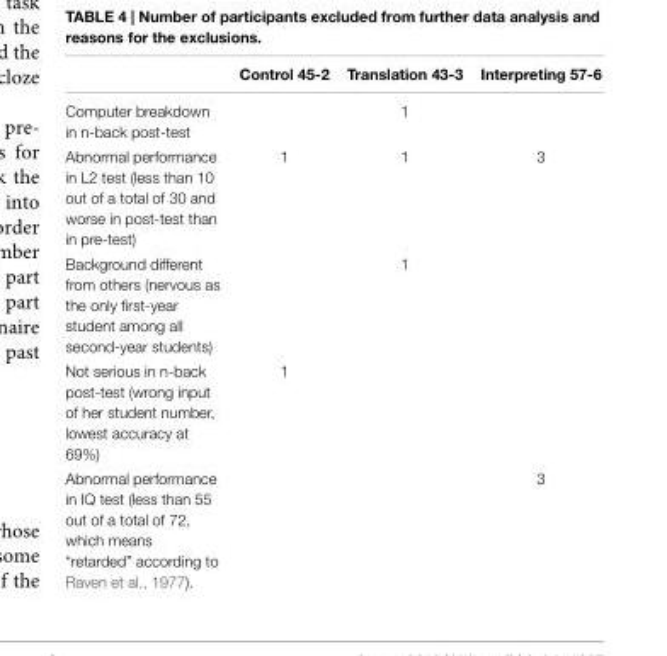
<table><thead><tr><td></td><td>Control 45-2</td><td>Translation 43-3</td><td>Interpreting 57-6</td></tr></thead><tbody><tr><td>Computer breakdown in n-back post-test</td><td></td><td>1</td><td></td></tr><tr><td>Abnormal performance in L2 test (less than 10 out of a total of 30 and worse in post-test than in pre-test)</td><td>1</td><td>1</td><td>3</td></tr><tr><td>Background different from others (nervous as the only first-year student among all second-year students)</td><td></td><td>1</td><td></td></tr><tr><td>Not serious in n-back post-test (wrong input of her student number, lowest accuracy at 69%)</td><td>1</td><td></td><td></td></tr><tr><td>Abnormal performance in IQ test (less than 55 out of a total of 72, which means “retarded” according to Raven et al., 1977).</td><td></td><td></td><td>3</td></tr></tbody></table>